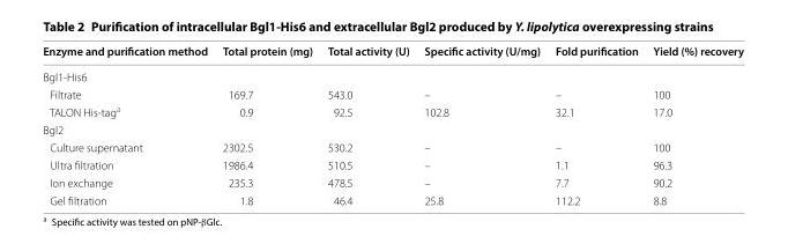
<table><thead><tr><td>Enzyme and purification method</td><td>Total protein (mg)</td><td>Total activity (U)</td><td>Specific activity (U/mg)</td><td>Fold purification</td><td>Yield (%) recovery</td></tr></thead><tbody><tr><td colspan="6">Bgl1‑His6</td></tr><tr><td>Filtrate</td><td>169.7</td><td>543.0</td><td>–</td><td>–</td><td>100</td></tr><tr><td>TALON His‑tag<sup>a</sup></td><td>0.9</td><td>92.5</td><td>102.8</td><td>32.1</td><td>17.0</td></tr><tr><td colspan="6">Bgl2</td></tr><tr><td>Culture supernatant</td><td>2302.5</td><td>530.2</td><td>–</td><td>–</td><td>100</td></tr><tr><td>Ultra filtration</td><td>1986.4</td><td>510.5</td><td>–</td><td>1.1</td><td>96.3</td></tr><tr><td>Ion exchange</td><td>235.3</td><td>478.5</td><td>–</td><td>7.7</td><td>90.2</td></tr><tr><td>Gel filtration</td><td>1.8</td><td>46.4</td><td>25.8</td><td>112.2</td><td>8.8</td></tr></tbody></table>